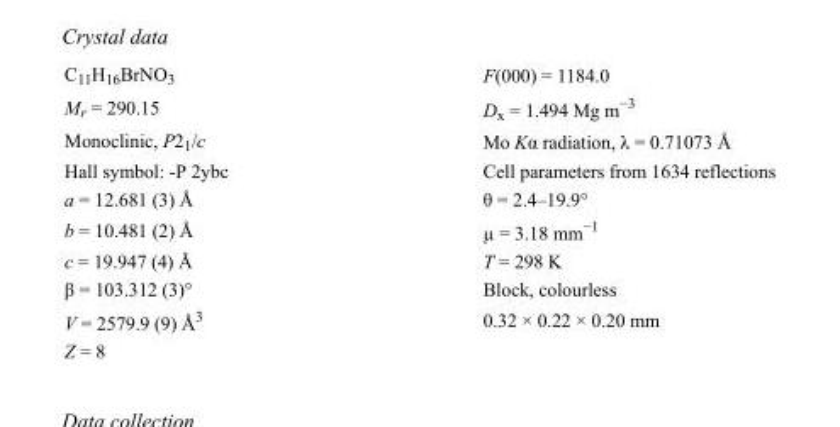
<table><tbody><tr><td>C<sub>11</sub>H<sub>16</sub>BrNO<sub>3</sub></td><td>F(000) = 1184.0</td></tr><tr><td>M<sub>r</sub> = 290.15</td><td>D<sub>x</sub> = 1.494 Mg m<sup>−3</sup></td></tr><tr><td>Monoclinic, P2<sub>1</sub>/c</td><td>Mo Kα radiation, λ = 0.71073 Å</td></tr><tr><td>Hall symbol: -P 2ybc</td><td>Cell parameters from 1634 reflections</td></tr><tr><td>a = 12.681 (3) Å</td><td>θ = 2.4–19.9°</td></tr><tr><td>b = 10.481 (2) Å</td><td>µ = 3.18 mm<sup>−1</sup></td></tr><tr><td>c = 19.947 (4) Å</td><td>T = 298 K</td></tr><tr><td>β = 103.312 (3)°</td><td>Block, colourless</td></tr><tr><td>V = 2579.9 (9) Å<sup>3</sup></td><td>0.32 × 0.22 × 0.20 mm</td></tr><tr><td>Z = 8</td><td></td></tr></tbody></table>